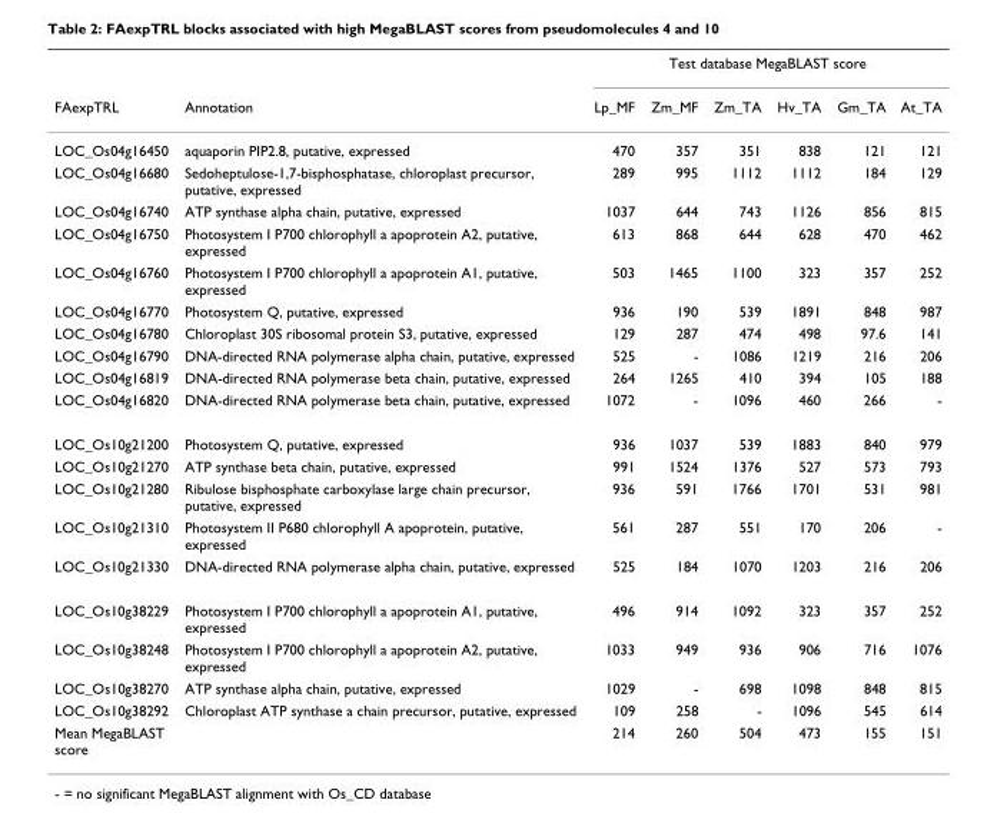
<table><thead><tr><td rowspan="2">FAexpTRL</td><td rowspan="2">Annotation</td><td colspan="6">Test database MegaBLAST score</td></tr><tr><td>Lp_MF</td><td>Zm_MF</td><td>Zm_TA</td><td>Hv_TA</td><td>Gm_TA</td><td>At_TA</td></tr></thead><tbody><tr><td>LOC_Os04g16450</td><td>aquaporin PIP2.8, putative, expressed</td><td>470</td><td>357</td><td>351</td><td>838</td><td>121</td><td>121</td></tr><tr><td>LOC_Os04g16680</td><td>Sedoheptulose-1,7-bisphosphatase, chloroplast precursor, putative, expressed</td><td>289</td><td>995</td><td>1112</td><td>1112</td><td>184</td><td>129</td></tr><tr><td>LOC_Os04g16740</td><td>ATP synthase alpha chain, putative, expressed</td><td>1037</td><td>644</td><td>743</td><td>1126</td><td>856</td><td>815</td></tr><tr><td>LOC_Os04g16750</td><td>Photosystem I P700 chlorophyll a apoprotein A2, putative, expressed</td><td>613</td><td>868</td><td>644</td><td>628</td><td>470</td><td>462</td></tr><tr><td>LOC_Os04g16760</td><td>Photosystem I P700 chlorophyll a apoprotein A1, putative, expressed</td><td>503</td><td>1465</td><td>1100</td><td>323</td><td>357</td><td>252</td></tr><tr><td>LOC_Os04g16770</td><td>Photosystem Q, putative, expressed</td><td>936</td><td>190</td><td>539</td><td>1891</td><td>848</td><td>987</td></tr><tr><td>LOC_Os04g16780</td><td>Chloroplast 30S ribosomal protein S3, putative, expressed</td><td>129</td><td>287</td><td>474</td><td>498</td><td>97.6</td><td>141</td></tr><tr><td>LOC_Os04g16790</td><td>DNA-directed RNA polymerase alpha chain, putative, expressed</td><td>525</td><td>-</td><td>1086</td><td>1219</td><td>216</td><td>206</td></tr><tr><td>LOC_Os04g16819</td><td>DNA-directed RNA polymerase beta chain, putative, expressed</td><td>264</td><td>1265</td><td>410</td><td>394</td><td>105</td><td>188</td></tr><tr><td>LOC_Os04g16820</td><td>DNA-directed RNA polymerase beta chain, putative, expressed</td><td>1072</td><td>-</td><td>1096</td><td>460</td><td>266</td><td>-</td></tr><tr><td>LOC_Os10g21200</td><td>Photosystem Q, putative, expressed</td><td>936</td><td>1037</td><td>539</td><td>1883</td><td>840</td><td>979</td></tr><tr><td>LOC_Os10g21270</td><td>ATP synthase beta chain, putative, expressed</td><td>991</td><td>1524</td><td>1376</td><td>527</td><td>573</td><td>793</td></tr><tr><td>LOC_Os10g21280</td><td>Ribulose bisphosphate carboxylase large chain precursor, putative, expressed</td><td>936</td><td>591</td><td>1766</td><td>1701</td><td>531</td><td>981</td></tr><tr><td>LOC_Os10g21310</td><td>Photosystem II P680 chlorophyll A apoprotein, putative, expressed</td><td>561</td><td>287</td><td>551</td><td>170</td><td>206</td><td>-</td></tr><tr><td>LOC_Os10g21330</td><td>DNA-directed RNA polymerase alpha chain, putative, expressed</td><td>525</td><td>184</td><td>1070</td><td>1203</td><td>216</td><td>206</td></tr><tr><td>LOC_Os10g38229</td><td>Photosystem I P700 chlorophyll a apoprotein A1, putative, expressed</td><td>496</td><td>914</td><td>1092</td><td>323</td><td>357</td><td>252</td></tr><tr><td>LOC_Os10g38248</td><td>Photosystem I P700 chlorophyll a apoprotein A2, putative, expressed</td><td>1033</td><td>949</td><td>936</td><td>906</td><td>716</td><td>1076</td></tr><tr><td>LOC_Os10g38270</td><td>ATP synthase alpha chain, putative, expressed</td><td>1029</td><td>-</td><td>698</td><td>1098</td><td>848</td><td>815</td></tr><tr><td>LOC_Os10g38292</td><td>Chloroplast ATP synthase a chain precursor, putative, expressed</td><td>109</td><td>258</td><td>-</td><td>1096</td><td>545</td><td>614</td></tr><tr><td>Mean MegaBLAST score</td><td></td><td>214</td><td>260</td><td>504</td><td>473</td><td>155</td><td>151</td></tr></tbody></table>